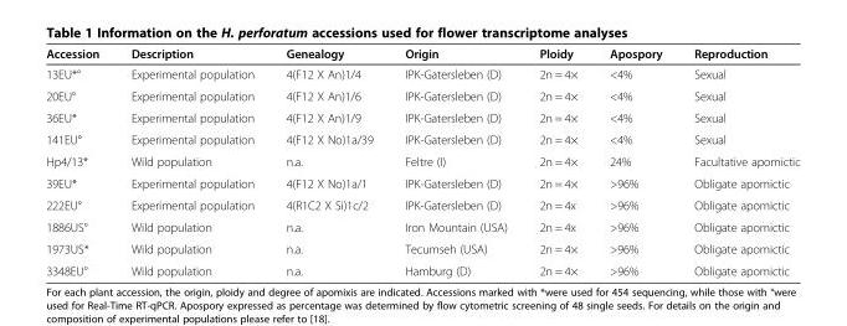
<table><thead><tr><td>Accession</td><td>Description</td><td>Genealogy</td><td>Origin</td><td>Ploidy</td><td>Apospory</td><td>Reproduction</td></tr></thead><tbody><tr><td>13EU*°</td><td>Experimental population</td><td>4(F12 X An)1/4</td><td>IPK-Gatersleben (D)</td><td>2n = 4×</td><td>&lt;4%</td><td>Sexual</td></tr><tr><td>20EU°</td><td>Experimental population</td><td>4(F12 X An)1/6</td><td>IPK-Gatersleben (D)</td><td>2n = 4×</td><td>&lt;4%</td><td>Sexual</td></tr><tr><td>36EU*</td><td>Experimental population</td><td>4(F12 X An)1/9</td><td>IPK-Gatersleben (D)</td><td>2n = 4×</td><td>&lt;4%</td><td>Sexual</td></tr><tr><td>141EU°</td><td>Experimental population</td><td>4(F12 X No)1a/39</td><td>IPK-Gatersleben (D)</td><td>2n = 4×</td><td>&lt;4%</td><td>Sexual</td></tr><tr><td>Hp4/13*</td><td>Wild population</td><td>n.a.</td><td>Feltre (I)</td><td>2n = 4×</td><td>24%</td><td>Facultative apomictic</td></tr><tr><td>39EU*</td><td>Experimental population</td><td>4(F12 X No)1a/1</td><td>IPK-Gatersleben (D)</td><td>2n = 4×</td><td>&gt;96%</td><td>Obligate apomictic</td></tr><tr><td>222EU°</td><td>Experimental population</td><td>4(R1C2 X Si)1c/2</td><td>IPK-Gatersleben (D)</td><td>2n = 4x</td><td>&gt;96%</td><td>Obligate apomictic</td></tr><tr><td>1886US°</td><td>Wild population</td><td>n.a.</td><td>Iron Mountain (USA)</td><td>2n = 4x</td><td>&gt;96%</td><td>Obligate apomictic</td></tr><tr><td>1973US*</td><td>Wild population</td><td>n.a.</td><td>Tecumseh (USA)</td><td>2n = 4×</td><td>&gt;96%</td><td>Obligate apomictic</td></tr><tr><td>3348EU°</td><td>Wild population</td><td>n.a.</td><td>Hamburg (D)</td><td>2n = 4×</td><td>&gt;96%</td><td>Obligate apomictic</td></tr></tbody></table>